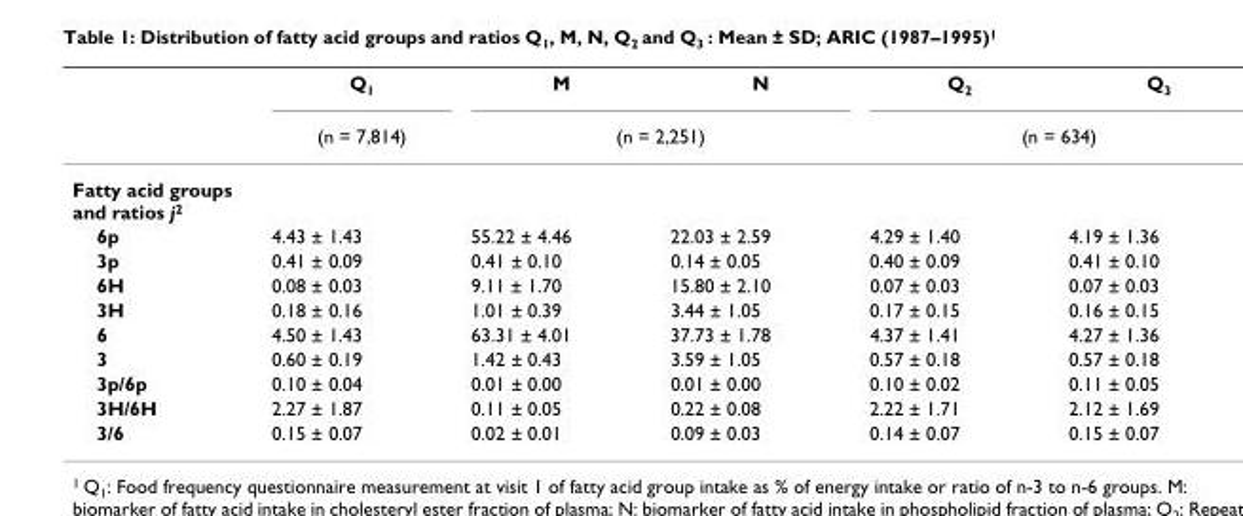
<table><thead><tr><td rowspan="2"></td><td rowspan="2">Q<sub>1</sub> (n = 7,814)</td><td>M</td><td>N</td><td>Q<sub>2</sub></td><td>Q<sub>3</sub></td></tr><tr><td colspan="2">(n = 2,251)</td><td colspan="2">(n = 634)</td></tr></thead><tbody><tr><td colspan="6">Fatty acid groups and ratios j<sup>2</sup></td></tr><tr><td>6p</td><td>4.43 ± 1.43</td><td>55.22 ± 4.46</td><td>22.03 ± 2.59</td><td>4.29 ± 1.40</td><td>4.19 ± 1.36</td></tr><tr><td>3p</td><td>0.41 ± 0.09</td><td>0.41 ± 0.10</td><td>0.14 ± 0.05</td><td>0.40 ± 0.09</td><td>0.41 ± 0.10</td></tr><tr><td>6H</td><td>0.08 ± 0.03</td><td>9.11 ± 1.70</td><td>15.80 ± 2.10</td><td>0.07 ± 0.03</td><td>0.07 ± 0.03</td></tr><tr><td>3H</td><td>0.18 ± 0.16</td><td>1.01 ± 0.39</td><td>3.44 ± 1.05</td><td>0.17 ± 0.15</td><td>0.16 ± 0.15</td></tr><tr><td>6</td><td>4.50 ± 1.43</td><td>63.31 ± 4.01</td><td>37.73 ± 1.78</td><td>4.37 ± 1.41</td><td>4.27 ± 1.36</td></tr><tr><td>3</td><td>0.60 ± 0.19</td><td>1.42 ± 0.43</td><td>3.59 ± 1.05</td><td>0.57 ± 0.18</td><td>0.57 ± 0.18</td></tr><tr><td>3p/6p</td><td>0.10 ± 0.04</td><td>0.01 ± 0.00</td><td>0.01 ± 0.00</td><td>0.10 ± 0.02</td><td>0.11 ± 0.05</td></tr><tr><td>3H/6H</td><td>2.27 ± 1.87</td><td>0.11 ± 0.05</td><td>0.22 ± 0.08</td><td>2.22 ± 1.71</td><td>2.12 ± 1.69</td></tr><tr><td>3/6</td><td>0.15 ± 0.07</td><td>0.02 ± 0.01</td><td>0.09 ± 0.03</td><td>0.14 ± 0.07</td><td>0.15 ± 0.07</td></tr></tbody></table>